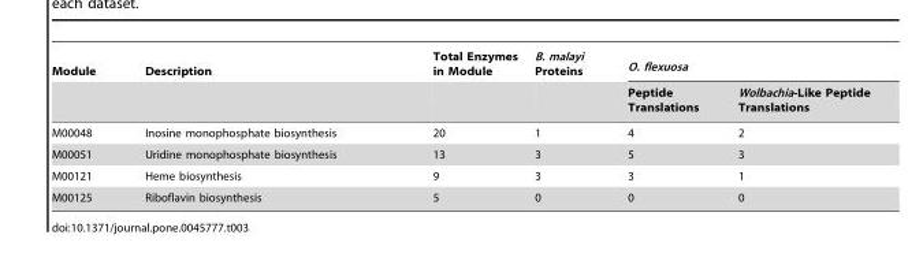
<table><thead><tr><td rowspan="2">Module</td><td rowspan="2">Description</td><td rowspan="2">Total Enzymes in Module</td><td rowspan="2">B. malayi Proteins</td><td colspan="2">O. flexuosa</td></tr><tr><td>Peptide Translations</td><td>Wolbachia-Like Peptide Translations</td></tr></thead><tbody><tr><td>M00048</td><td>Inosine monophosphate biosynthesis</td><td>20</td><td>1</td><td>4</td><td>2</td></tr><tr><td>M00051</td><td>Uridine monophosphate biosynthesis</td><td>13</td><td>3</td><td>5</td><td>3</td></tr><tr><td>M00121</td><td>Heme biosynthesis</td><td>9</td><td>3</td><td>3</td><td>1</td></tr><tr><td>M00125</td><td>Riboflavin biosynthesis</td><td>5</td><td>0</td><td>0</td><td>0</td></tr></tbody></table>